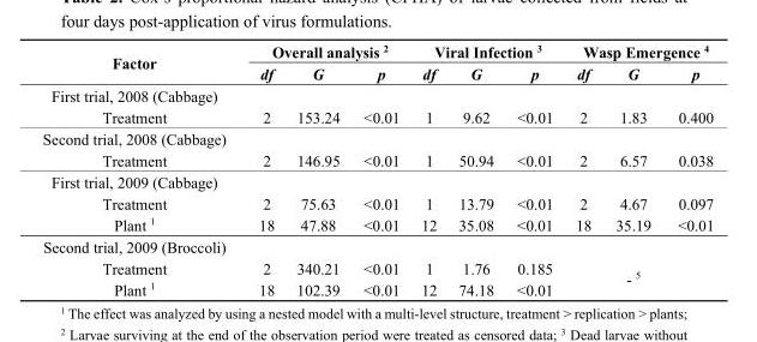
<table><thead><tr><td rowspan="2">Factor</td><td colspan="3">Overall analysis <sup>2</sup></td><td colspan="3">Viral Infection <sup>3</sup></td><td colspan="3">Wasp Emergence <sup>4</sup></td></tr><tr><td>df</td><td>G</td><td>p</td><td>df</td><td>G</td><td>p</td><td>df</td><td>G</td><td>p</td></tr></thead><tbody><tr><td colspan="10">First trial, 2008 (Cabbage)</td></tr><tr><td>Treatment</td><td>2</td><td>153.24</td><td>&lt;0.01</td><td>1</td><td>9.62</td><td>&lt;0.01</td><td>2</td><td>1.83</td><td>0.400</td></tr><tr><td colspan="10">Second trial, 2008 (Cabbage)</td></tr><tr><td>Treatment</td><td>2</td><td>146.95</td><td>&lt;0.01</td><td>1</td><td>50.94</td><td>&lt;0.01</td><td>2</td><td>6.57</td><td>0.038</td></tr><tr><td colspan="10">First trial, 2009 (Cabbage)</td></tr><tr><td>Treatment</td><td>2</td><td>75.63</td><td>&lt;0.01</td><td>1</td><td>13.79</td><td>&lt;0.01</td><td>2</td><td>4.67</td><td>0.097</td></tr><tr><td>Plant <sup>1</sup></td><td>18</td><td>47.88</td><td>&lt;0.01</td><td>12</td><td>35.08</td><td>&lt;0.01</td><td>18</td><td>35.19</td><td>&lt;0.01</td></tr><tr><td colspan="10">Second trial, 2009 (Broccoli)</td></tr><tr><td>Treatment</td><td>2</td><td>340.21</td><td>&lt;0.01</td><td>1</td><td>1.76</td><td>0.185</td><td></td><td rowspan="2">- <sup>5</sup></td><td></td></tr><tr><td>Plant <sup>1</sup></td><td>18</td><td>102.39</td><td>&lt;0.01</td><td>12</td><td>74.18</td><td>&lt;0.01</td><td></td><td></td></tr></tbody></table>